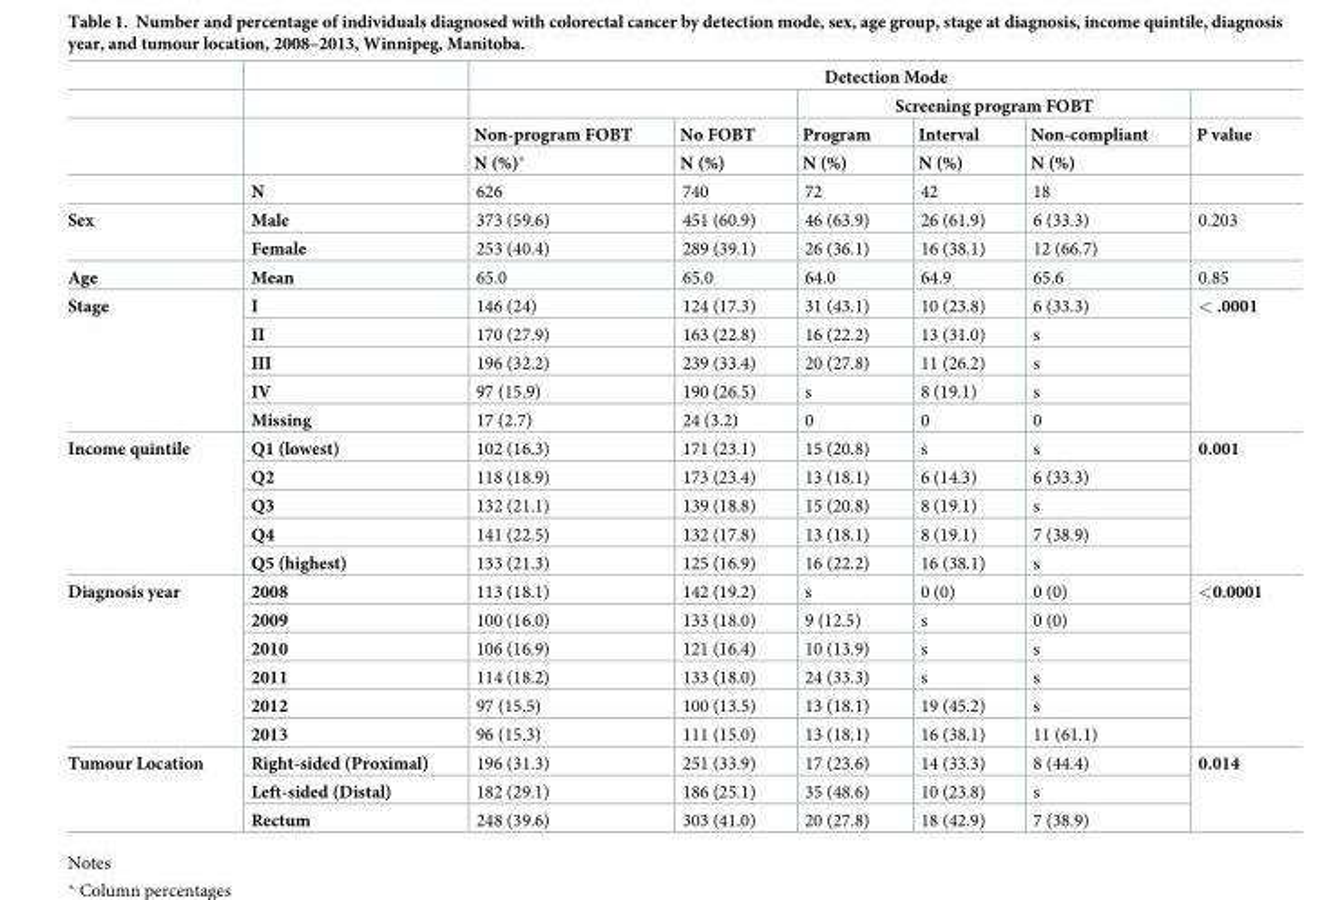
<table><thead><tr><td rowspan="4"></td><td rowspan="4"></td><td colspan="6">Detection Mode</td></tr><tr><td rowspan="3">Non-program FOBT N (%)*</td><td rowspan="3">No FOBT N (%)</td><td colspan="3">Screening program FOBT</td><td rowspan="3">P value</td></tr><tr><td rowspan="2">Program N (%)</td><td rowspan="2">Interval N (%)</td><td rowspan="2">Non-compliant N (%)</td></tr><tr></tr></thead><tbody><tr><td></td><td>N</td><td>626</td><td>740</td><td>72</td><td>42</td><td>18</td><td></td></tr><tr><td rowspan="2">Sex</td><td>Male</td><td>373 (59.6)</td><td>451 (60.9)</td><td>46 (63.9)</td><td>26 (61.9)</td><td>6 (33.3)</td><td rowspan="2">0.203</td></tr><tr><td>Female</td><td>253 (40.4)</td><td>289 (39.1)</td><td>26 (36.1)</td><td>16 (38.1)</td><td>12 (66.7)</td></tr><tr><td>Age</td><td>Mean</td><td>65.0</td><td>65.0</td><td>64.0</td><td>64.9</td><td>65.6</td><td>0.85</td></tr><tr><td rowspan="5">Stage</td><td>I</td><td>146 (24)</td><td>124 (17.3)</td><td>31 (43.1)</td><td>10 (23.8)</td><td>6 (33.3)</td><td rowspan="5">&lt; .0001</td></tr><tr><td>II</td><td>170 (27.9)</td><td>163 (22.8)</td><td>16 (22.2)</td><td>13 (31.0)</td><td>s</td></tr><tr><td>III</td><td>196 (32.2)</td><td>239 (33.4)</td><td>20 (27.8)</td><td>11 (26.2)</td><td>s</td></tr><tr><td>IV</td><td>97 (15.9)</td><td>190 (26.5)</td><td>s</td><td>8 (19.1)</td><td>s</td></tr><tr><td>Missing</td><td>17 (2.7)</td><td>24 (3.2)</td><td>0</td><td>0</td><td>0</td></tr><tr><td rowspan="5">Income quintile</td><td>Q1 (lowest)</td><td>102 (16.3)</td><td>171 (23.1)</td><td>15 (20.8)</td><td>s</td><td>s</td><td rowspan="5">0.001</td></tr><tr><td>Q2</td><td>118 (18.9)</td><td>173 (23.4)</td><td>13 (18.1)</td><td>6 (14.3)</td><td>6 (33.3)</td></tr><tr><td>Q3</td><td>132 (21.1)</td><td>139 (18.8)</td><td>15 (20.8)</td><td>8 (19.1)</td><td>s</td></tr><tr><td>Q4</td><td>141 (22.5)</td><td>132 (17.8)</td><td>13 (18.1)</td><td>8 (19.1)</td><td>7 (38.9)</td></tr><tr><td>Q5 (highest)</td><td>133 (21.3)</td><td>125 (16.9)</td><td>16 (22.2)</td><td>16 (38.1)</td><td>s</td></tr><tr><td rowspan="6">Diagnosis year</td><td>2008</td><td>113 (18.1)</td><td>142 (19.2)</td><td>s</td><td>0 (0)</td><td>0 (0)</td><td rowspan="6">&lt;0.0001</td></tr><tr><td>2009</td><td>100 (16.0)</td><td>133 (18.0)</td><td>9 (12.5)</td><td>s</td><td>0 (0)</td></tr><tr><td>2010</td><td>106 (16.9)</td><td>121 (16.4)</td><td>10 (13.9)</td><td>s</td><td>s</td></tr><tr><td>2011</td><td>114 (18.2)</td><td>133 (18.0)</td><td>24 (33.3)</td><td>s</td><td>s</td></tr><tr><td>2012</td><td>97 (15.5)</td><td>100 (13.5)</td><td>13 (18.1)</td><td>19 (45.2)</td><td>s</td></tr><tr><td>2013</td><td>96 (15.3)</td><td>111 (15.0)</td><td>13 (18.1)</td><td>16 (38.1)</td><td>11 (61.1)</td></tr><tr><td rowspan="3">Tumour Location</td><td>Right-sided (Proximal)</td><td>196 (31.3)</td><td>251 (33.9)</td><td>17 (23.6)</td><td>14 (33.3)</td><td>8 (44.4)</td><td rowspan="3">0.014</td></tr><tr><td>Left-sided (Distal)</td><td>182 (29.1)</td><td>186 (25.1)</td><td>35 (48.6)</td><td>10 (23.8)</td><td>s</td></tr><tr><td>Rectum</td><td>248 (39.6)</td><td>303 (41.0)</td><td>20 (27.8)</td><td>18 (42.9)</td><td>7 (38.9)</td></tr></tbody></table>